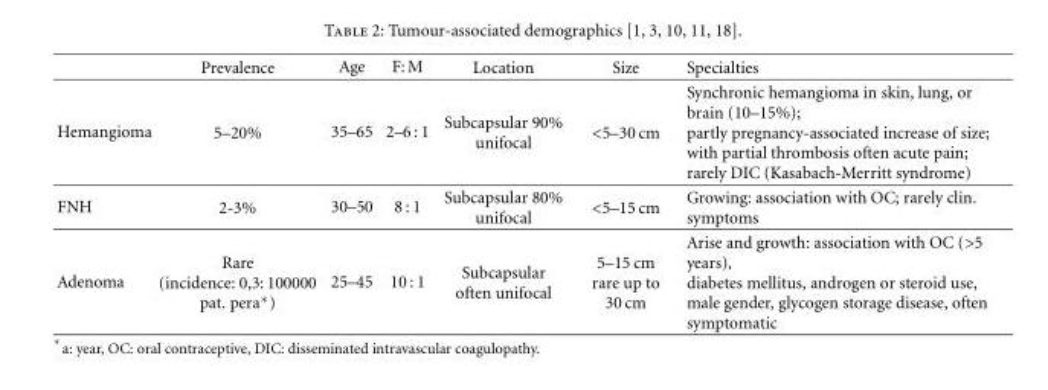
<table><thead><tr><td></td><td>Prevalence</td><td>Age</td><td>F: M</td><td>Location</td><td>Size</td><td>Specialties</td></tr></thead><tbody><tr><td>Hemangioma</td><td>5–20%</td><td>35–65</td><td>2–6 : 1</td><td>Subcapsular 90% unifocal</td><td>&lt;5–30 cm</td><td>Synchronic hemangioma in skin, lung, or brain (10–15%); partly pregnancy-associated increase of size; with partial thrombosis often acute pain; rarely DIC (Kasabach-Merritt syndrome)</td></tr><tr><td>FNH</td><td>2-3%</td><td>30–50</td><td>8 : 1</td><td>Subcapsular 80% unifocal</td><td>&lt;5–15 cm</td><td>Growing: association with OC; rarely clin. symptoms</td></tr><tr><td>Adenoma</td><td>Rare (incidence: 0,3: 100000 pat. pera∗)</td><td>25–45</td><td>10 : 1</td><td>Subcapsular often unifocal</td><td>5–15 cm rare up to 30 cm</td><td>Arise and growth: association with OC (&gt;5 years), diabetes mellitus, androgen or steroid use, male gender, glycogen storage disease, often symptomatic</td></tr></tbody></table>